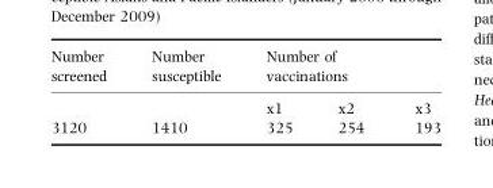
<table><thead><tr><td rowspan="2">Number screened</td><td rowspan="2">Number susceptible</td><td colspan="3">Number of vaccinations</td></tr><tr><td>x1</td><td>x2</td><td>x3</td></tr></thead><tbody><tr><td>3120</td><td>1410</td><td>325</td><td>254</td><td>193</td></tr></tbody></table>